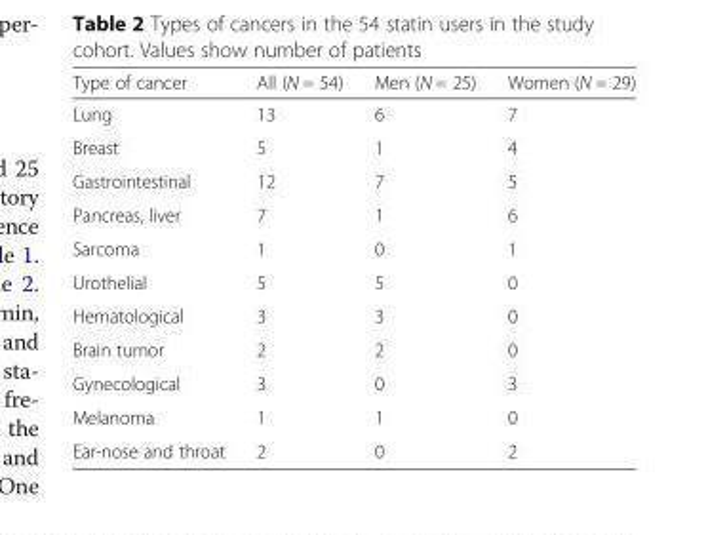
<table><thead><tr><td>Type of cancer</td><td>All (N = 54)</td><td>Men (N = 25)</td><td>Women (N = 29)</td></tr></thead><tbody><tr><td>Lung</td><td>13</td><td>6</td><td>7</td></tr><tr><td>Breast</td><td>5</td><td>1</td><td>4</td></tr><tr><td>Gastrointestinal</td><td>12</td><td>7</td><td>5</td></tr><tr><td>Pancreas, liver</td><td>7</td><td>1</td><td>6</td></tr><tr><td>Sarcoma</td><td>1</td><td>0</td><td>1</td></tr><tr><td>Urothelial</td><td>5</td><td>5</td><td>0</td></tr><tr><td>Hematological</td><td>3</td><td>3</td><td>0</td></tr><tr><td>Brain tumor</td><td>2</td><td>2</td><td>0</td></tr><tr><td>Gynecological</td><td>3</td><td>0</td><td>3</td></tr><tr><td>Melanoma</td><td>1</td><td>1</td><td>0</td></tr><tr><td>Ear-nose and throat</td><td>2</td><td>0</td><td>2</td></tr></tbody></table>